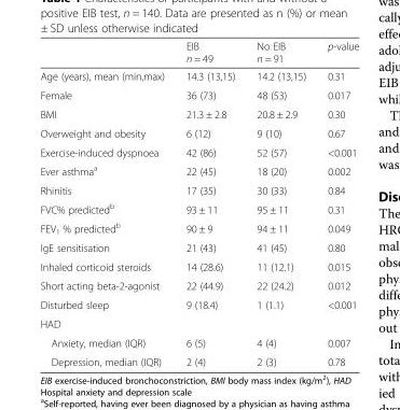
<table><thead><tr><td></td><td>EIB n = 49</td><td>No EIB n = 91</td><td>p-value</td></tr></thead><tbody><tr><td>Age (years), mean (min,max)</td><td>14.3 (13,15)</td><td>14.2 (13,15)</td><td>0.31</td></tr><tr><td>Female</td><td>36 (73)</td><td>48 (53)</td><td>0.017</td></tr><tr><td>BMI</td><td>21.3 ± 2.8</td><td>20.8 ± 2.9</td><td>0.30</td></tr><tr><td>Overweight and obesity</td><td>6 (12)</td><td>9 (10)</td><td>0.67</td></tr><tr><td>Exercise-induced dyspnoea</td><td>42 (86)</td><td>52 (57)</td><td>&lt;0.001</td></tr><tr><td>Ever asthma<sup>a</sup></td><td>22 (45)</td><td>18 (20)</td><td>0.002</td></tr><tr><td>Rhinitis</td><td>17 (35)</td><td>30 (33)</td><td>0.84</td></tr><tr><td>FVC% predicted<sup>b</sup></td><td>93 ± 11</td><td>95 ± 11</td><td>0.31</td></tr><tr><td>FEV<sub>1</sub> % predicted<sup>b</sup></td><td>90 ± 9</td><td>94 ± 11</td><td>0.049</td></tr><tr><td>IgE sensitisation</td><td>21 (43)</td><td>41 (45)</td><td>0.80</td></tr><tr><td>Inhaled corticoid steroids</td><td>14 (28.6)</td><td>11 (12.1)</td><td>0.015</td></tr><tr><td>Short acting beta-2-agonist</td><td>22 (44.9)</td><td>22 (24.2)</td><td>0.012</td></tr><tr><td>Disturbed sleep</td><td>9 (18.4)</td><td>1 (1.1)</td><td>&lt;0.001</td></tr><tr><td colspan="4">HAD</td></tr><tr><td>Anxiety, median (IQR)</td><td>6 (5)</td><td>4 (4)</td><td>0.007</td></tr><tr><td>Depression, median (IQR)</td><td>2 (4)</td><td>2 (3)</td><td>0.78</td></tr></tbody></table>